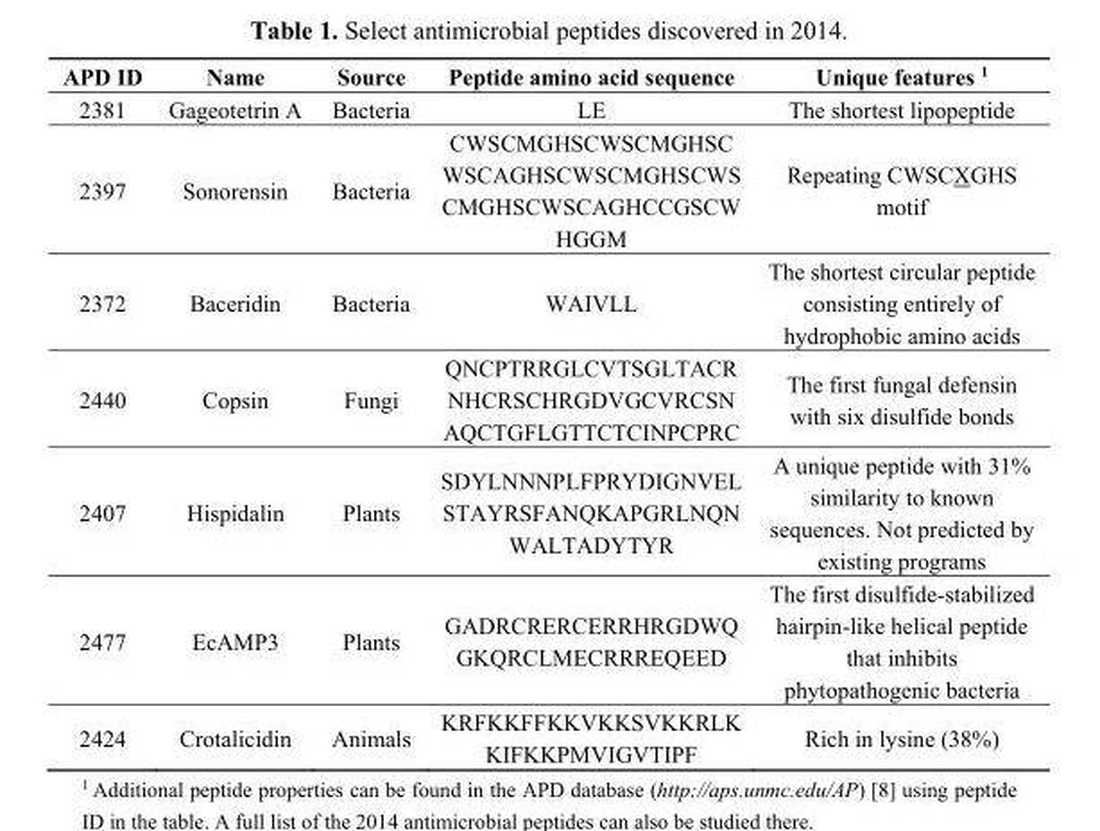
<table><thead><tr><td>APD ID</td><td>Name</td><td>Source</td><td>Peptide amino acid sequence</td><td>Unique features <sup>1</sup></td></tr></thead><tbody><tr><td>2381</td><td>Gageotetrin A</td><td>Bacteria</td><td>LE</td><td>The shortest lipopeptide</td></tr><tr><td>2397</td><td>Sonorensin</td><td>Bacteria</td><td>CWSCMGHSCWSCMGHSC WSCAGHSCWSCMGHSCWS CMGHSCWSCAGHCCGSCW HGGM</td><td>Repeating CWSCXGHS motif</td></tr><tr><td>2372</td><td>Baceridin</td><td>Bacteria</td><td>WAIVLL</td><td>The shortest circular peptide consisting entirely of hydrophobic amino acids</td></tr><tr><td>2440</td><td>Copsin</td><td>Fungi</td><td>QNCPTRRGLCVTSGLTACR NHCRSCHRGDVGCVRCSN AQCTGFLGTTCTCINPCPRC</td><td>The first fungal defensin with six disulfide bonds</td></tr><tr><td>2407</td><td>Hispidalin</td><td>Plants</td><td>SDYLNNNPLFPRYDIGNVEL STAYRSFANQKAPGRLNQN WALTADYTYR</td><td>A unique peptide with 31% similarity to known sequences. Not predicted by existing programs</td></tr><tr><td>2477</td><td>EcAMP3</td><td>Plants</td><td>GADRCRERCERRHRGDWQ GKQRCLMECRRREQEED</td><td>The first disulfide-stabilized hairpin-like helical peptide that inhibits phytopathogenic bacteria</td></tr><tr><td>2424</td><td>Crotalicidin</td><td>Animals</td><td>KRFKKFFKKVKKSVKKRLK KIFKKPMVIGVTIPF</td><td>Rich in lysine (38%)</td></tr></tbody></table>